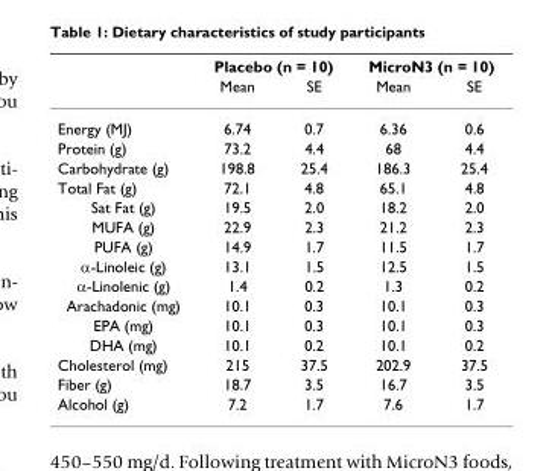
<table><thead><tr><td rowspan="2"></td><td colspan="2">Placebo (n = 10)</td><td colspan="2">MicroN3 (n = 10)</td></tr><tr><td>Mean</td><td>SE</td><td>Mean</td><td>SE</td></tr></thead><tbody><tr><td>Energy (MJ)</td><td>6.74</td><td>0.7</td><td>6.36</td><td>0.6</td></tr><tr><td>Protein (g)</td><td>73.2</td><td>4.4</td><td>68</td><td>4.4</td></tr><tr><td>Carbohydrate (g)</td><td>198.8</td><td>25.4</td><td>186.3</td><td>25.4</td></tr><tr><td>Total Fat (g)</td><td>72.1</td><td>4.8</td><td>65.1</td><td>4.8</td></tr><tr><td>Sat Fat (g)</td><td>19.5</td><td>2.0</td><td>18.2</td><td>2.0</td></tr><tr><td>MUFA (g)</td><td>22.9</td><td>2.3</td><td>21.2</td><td>2.3</td></tr><tr><td>PUFA (g)</td><td>14.9</td><td>1.7</td><td>11.5</td><td>1.7</td></tr><tr><td>α-Linoleic (g)</td><td>13.1</td><td>1.5</td><td>12.5</td><td>1.5</td></tr><tr><td>α-Linolenic (g)</td><td>1.4</td><td>0.2</td><td>1.3</td><td>0.2</td></tr><tr><td>Arachadonic (mg)</td><td>10.1</td><td>0.3</td><td>10.1</td><td>0.3</td></tr><tr><td>EPA (mg)</td><td>10.1</td><td>0.3</td><td>10.1</td><td>0.3</td></tr><tr><td>DHA (mg)</td><td>10.1</td><td>0.2</td><td>10.1</td><td>0.2</td></tr><tr><td>Cholesterol (mg)</td><td>215</td><td>37.5</td><td>202.9</td><td>37.5</td></tr><tr><td>Fiber (g)</td><td>18.7</td><td>3.5</td><td>16.7</td><td>3.5</td></tr><tr><td>Alcohol (g)</td><td>7.2</td><td>1.7</td><td>7.6</td><td>1.7</td></tr></tbody></table>